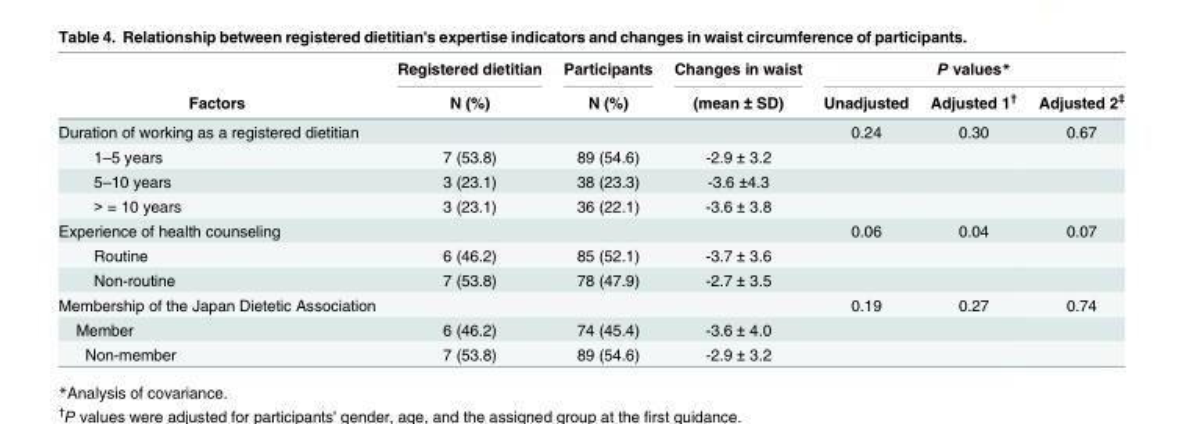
<table><thead><tr><td rowspan="2">Factors</td><td rowspan="2">Registered dietitian N (%)</td><td rowspan="2">Participants N (%)</td><td rowspan="2">Changes in waist (mean ± SD)</td><td colspan="3">P values*</td></tr><tr><td>Unadjusted</td><td>Adjusted 1<sup>†</sup></td><td>Adjusted 2<sup>‡</sup></td></tr></thead><tbody><tr><td>Duration of working as a registered dietitian</td><td></td><td></td><td></td><td>0.24</td><td>0.30</td><td>0.67</td></tr><tr><td>1–5 years</td><td>7 (53.8)</td><td>89 (54.6)</td><td>-2.9 ± 3.2</td><td></td><td></td><td></td></tr><tr><td>5–10 years</td><td>3 (23.1)</td><td>38 (23.3)</td><td>-3.6 ±4.3</td><td></td><td></td><td></td></tr><tr><td>&gt; = 10 years</td><td>3 (23.1)</td><td>36 (22.1)</td><td>-3.6 ± 3.8</td><td></td><td></td><td></td></tr><tr><td>Experience of health counseling</td><td></td><td></td><td></td><td>0.06</td><td>0.04</td><td>0.07</td></tr><tr><td>Routine</td><td>6 (46.2)</td><td>85 (52.1)</td><td>-3.7 ± 3.6</td><td></td><td></td><td></td></tr><tr><td>Non-routine</td><td>7 (53.8)</td><td>78 (47.9)</td><td>-2.7 ± 3.5</td><td></td><td></td><td></td></tr><tr><td>Membership of the Japan Dietetic Association</td><td></td><td></td><td></td><td>0.19</td><td>0.27</td><td>0.74</td></tr><tr><td>Member</td><td>6 (46.2)</td><td>74 (45.4)</td><td>-3.6 ± 4.0</td><td></td><td></td><td></td></tr><tr><td>Non-member</td><td>7 (53.8)</td><td>89 (54.6)</td><td>-2.9 ± 3.2</td><td></td><td></td><td></td></tr></tbody></table>